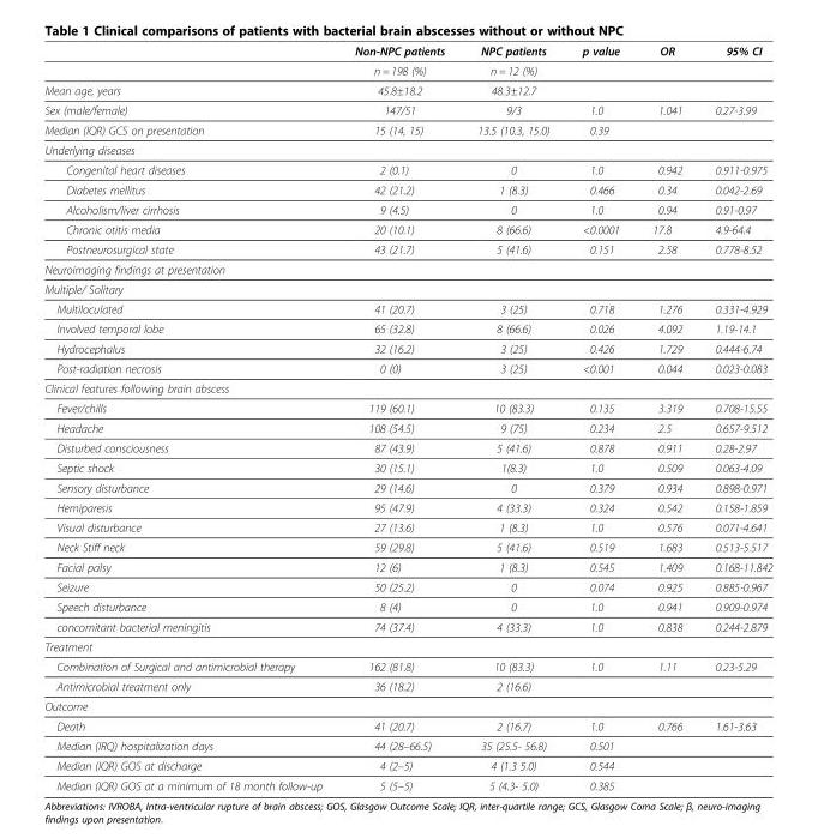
<table><thead><tr><td></td><td>Non-NPC patients</td><td>NPC patients</td><td>p value</td><td>OR</td><td>95% CI</td></tr></thead><tbody><tr><td></td><td>n = 198 (%)</td><td>n = 12 (%)</td><td></td><td></td><td></td></tr><tr><td>Mean age, years</td><td>45.8±18.2</td><td>48.3±12.7</td><td></td><td></td><td></td></tr><tr><td>Sex (male/female)</td><td>147/51</td><td>9/3</td><td>1.0</td><td>1.041</td><td>0.27-3.99</td></tr><tr><td>Median (IQR) GCS on presentation</td><td>15 (14, 15)</td><td>13.5 (10.3, 15.0)</td><td>0.39</td><td></td><td></td></tr><tr><td colspan="6">Underlying diseases</td></tr><tr><td>Congenital heart diseases</td><td>2 (0.1)</td><td>0</td><td>1.0</td><td>0.942</td><td>0.911-0.975</td></tr><tr><td>Diabetes mellitus</td><td>42 (21.2)</td><td>1 (8.3)</td><td>0.466</td><td>0.34</td><td>0.042-2.69</td></tr><tr><td>Alcoholism/liver cirrhosis</td><td>9 (4.5)</td><td>0</td><td>1.0</td><td>0.94</td><td>0.91-0.97</td></tr><tr><td>Chronic otitis media</td><td>20 (10.1)</td><td>8 (66.6)</td><td>&lt;0.0001</td><td>17.8</td><td>4.9-64.4</td></tr><tr><td>Postneurosurgical state</td><td>43 (21.7)</td><td>5 (41.6)</td><td>0.151</td><td>2.58</td><td>0.778-8.52</td></tr><tr><td colspan="6">Neuroimaging findings at presentation</td></tr><tr><td colspan="6">Multiple/ Solitary</td></tr><tr><td>Multiloculated</td><td>41 (20.7)</td><td>3 (25)</td><td>0.718</td><td>1.276</td><td>0.331-4.929</td></tr><tr><td>Involved temporal lobe</td><td>65 (32.8)</td><td>8 (66.6)</td><td>0.026</td><td>4.092</td><td>1.19-14.1</td></tr><tr><td>Hydrocephalus</td><td>32 (16.2)</td><td>3 (25)</td><td>0.426</td><td>1.729</td><td>0.444-6.74</td></tr><tr><td>Post-radiation necrosis</td><td>0 (0)</td><td>3 (25)</td><td>&lt;0.001</td><td>0.044</td><td>0.023-0.083</td></tr><tr><td colspan="6">Clinical features following brain abscess</td></tr><tr><td>Fever/chills</td><td>119 (60.1)</td><td>10 (83.3)</td><td>0.135</td><td>3.319</td><td>0.708-15.55</td></tr><tr><td>Headache</td><td>108 (54.5)</td><td>9 (75)</td><td>0.234</td><td>2.5</td><td>0.657-9.512</td></tr><tr><td>Disturbed consciousness</td><td>87 (43.9)</td><td>5 (41.6)</td><td>0.878</td><td>0.911</td><td>0.28-2.97</td></tr><tr><td>Septic shock</td><td>30 (15.1)</td><td>1(8.3)</td><td>1.0</td><td>0.509</td><td>0.063-4.09</td></tr><tr><td>Sensory disturbance</td><td>29 (14.6)</td><td>0</td><td>0.379</td><td>0.934</td><td>0.898-0.971</td></tr><tr><td>Hemiparesis</td><td>95 (47.9)</td><td>4 (33.3)</td><td>0.324</td><td>0.542</td><td>0.158-1.859</td></tr><tr><td>Visual disturbance</td><td>27 (13.6)</td><td>1 (8.3)</td><td>1.0</td><td>0.576</td><td>0.071-4.641</td></tr><tr><td>Neck Stiff neck</td><td>59 (29.8)</td><td>5 (41.6)</td><td>0.519</td><td>1.683</td><td>0.513-5.517</td></tr><tr><td>Facial palsy</td><td>12 (6)</td><td>1 (8.3)</td><td>0.545</td><td>1.409</td><td>0.168-11.842</td></tr><tr><td>Seizure</td><td>50 (25.2)</td><td>0</td><td>0.074</td><td>0.925</td><td>0.885-0.967</td></tr><tr><td>Speech disturbance</td><td>8 (4)</td><td>0</td><td>1.0</td><td>0.941</td><td>0.909-0.974</td></tr><tr><td>concomitant bacterial meningitis</td><td>74 (37.4)</td><td>4 (33.3)</td><td>1.0</td><td>0.838</td><td>0.244-2.879</td></tr><tr><td colspan="6">Treatment</td></tr><tr><td>Combination of Surgical and antimicrobial therapy</td><td>162 (81.8)</td><td>10 (83.3)</td><td>1.0</td><td>1.11</td><td>0.23-5.29</td></tr><tr><td>Antimicrobial treatment only</td><td>36 (18.2)</td><td>2 (16.6)</td><td></td><td></td><td></td></tr><tr><td colspan="6">Outcome</td></tr><tr><td>Death</td><td>41 (20.7)</td><td>2 (16.7)</td><td>1.0</td><td>0.766</td><td>1.61-3.63</td></tr><tr><td>Median (IRQ) hospitalization days</td><td>44 (28–66.5)</td><td>35 (25.5- 56.8)</td><td>0.501</td><td></td><td></td></tr><tr><td>Median (IQR) GOS at discharge</td><td>4 (2–5)</td><td>4 (1.3 5.0)</td><td>0.544</td><td></td><td></td></tr><tr><td>Median (IQR) GOS at a minimum of 18 month follow-up</td><td>5 (5–5)</td><td>5 (4.3- 5.0)</td><td>0.385</td><td></td><td></td></tr></tbody></table>